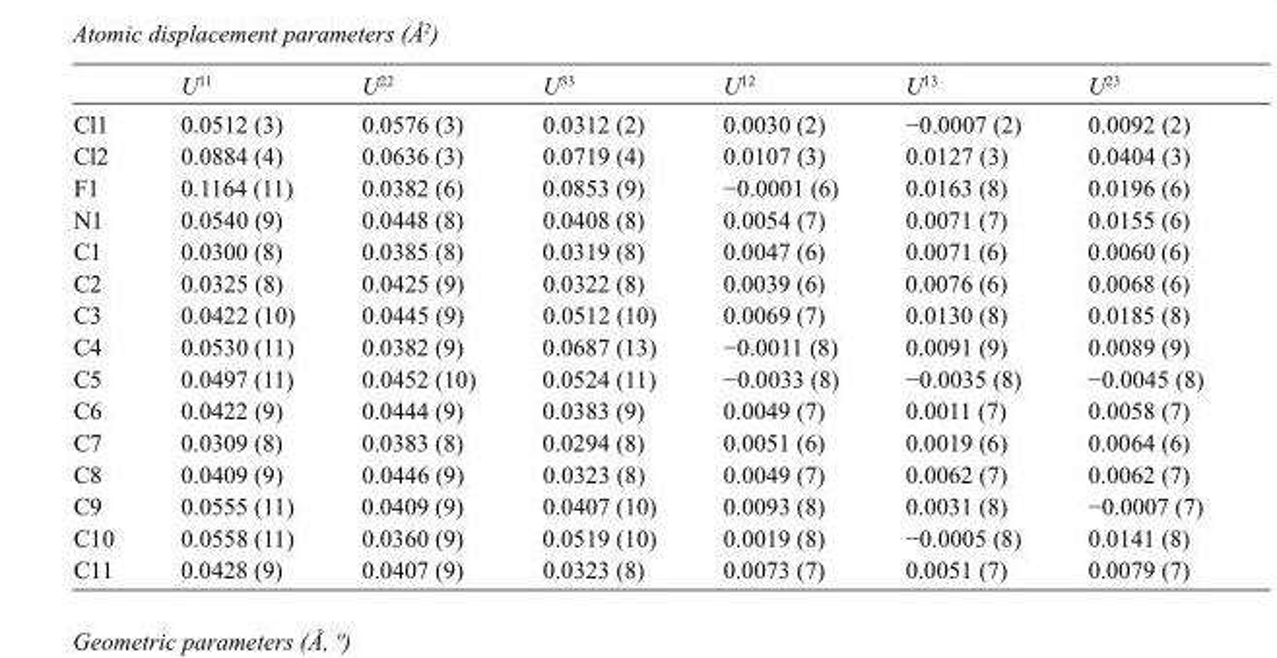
<table><thead><tr><td></td><td>U<sup>11</sup></td><td>U<sup>22</sup></td><td>U<sup>33</sup></td><td>U<sup>12</sup></td><td>U<sup>13</sup></td><td>U<sup>23</sup></td></tr></thead><tbody><tr><td>Cl1</td><td>0.0512 (3)</td><td>0.0576 (3)</td><td>0.0312 (2)</td><td>0.0030 (2)</td><td>−0.0007 (2)</td><td>0.0092 (2)</td></tr><tr><td>Cl2</td><td>0.0884 (4)</td><td>0.0636 (3)</td><td>0.0719 (4)</td><td>0.0107 (3)</td><td>0.0127 (3)</td><td>0.0404 (3)</td></tr><tr><td>F1</td><td>0.1164 (11)</td><td>0.0382 (6)</td><td>0.0853 (9)</td><td>−0.0001 (6)</td><td>0.0163 (8)</td><td>0.0196 (6)</td></tr><tr><td>N1</td><td>0.0540 (9)</td><td>0.0448 (8)</td><td>0.0408 (8)</td><td>0.0054 (7)</td><td>0.0071 (7)</td><td>0.0155 (6)</td></tr><tr><td>C1</td><td>0.0300 (8)</td><td>0.0385 (8)</td><td>0.0319 (8)</td><td>0.0047 (6)</td><td>0.0071 (6)</td><td>0.0060 (6)</td></tr><tr><td>C2</td><td>0.0325 (8)</td><td>0.0425 (9)</td><td>0.0322 (8)</td><td>0.0039 (6)</td><td>0.0076 (6)</td><td>0.0068 (6)</td></tr><tr><td>C3</td><td>0.0422 (10)</td><td>0.0445 (9)</td><td>0.0512 (10)</td><td>0.0069 (7)</td><td>0.0130 (8)</td><td>0.0185 (8)</td></tr><tr><td>C4</td><td>0.0530 (11)</td><td>0.0382 (9)</td><td>0.0687 (13)</td><td>−0.0011 (8)</td><td>0.0091 (9)</td><td>0.0089 (9)</td></tr><tr><td>C5</td><td>0.0497 (11)</td><td>0.0452 (10)</td><td>0.0524 (11)</td><td>−0.0033 (8)</td><td>−0.0035 (8)</td><td>−0.0045 (8)</td></tr><tr><td>C6</td><td>0.0422 (9)</td><td>0.0444 (9)</td><td>0.0383 (9)</td><td>0.0049 (7)</td><td>0.0011 (7)</td><td>0.0058 (7)</td></tr><tr><td>C7</td><td>0.0309 (8)</td><td>0.0383 (8)</td><td>0.0294 (8)</td><td>0.0051 (6)</td><td>0.0019 (6)</td><td>0.0064 (6)</td></tr><tr><td>C8</td><td>0.0409 (9)</td><td>0.0446 (9)</td><td>0.0323 (8)</td><td>0.0049 (7)</td><td>0.0062 (7)</td><td>0.0062 (7)</td></tr><tr><td>C9</td><td>0.0555 (11)</td><td>0.0409 (9)</td><td>0.0407 (10)</td><td>0.0093 (8)</td><td>0.0031 (8)</td><td>−0.0007 (7)</td></tr><tr><td>C10</td><td>0.0558 (11)</td><td>0.0360 (9)</td><td>0.0519 (10)</td><td>0.0019 (8)</td><td>−0.0005 (8)</td><td>0.0141 (8)</td></tr><tr><td>C11</td><td>0.0428 (9)</td><td>0.0407 (9)</td><td>0.0323 (8)</td><td>0.0073 (7)</td><td>0.0051 (7)</td><td>0.0079 (7)</td></tr></tbody></table>